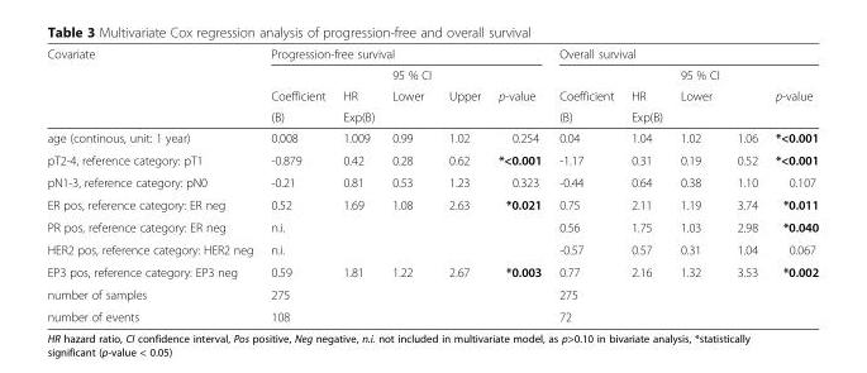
<table><thead><tr><td rowspan="4">Covariate</td><td colspan="5">Progression-free survival</td><td colspan="5">Overall survival</td></tr><tr><td rowspan="3">Coefficient (B)</td><td rowspan="3">HR Exp(B)</td><td rowspan="3">95 % CI Lower</td><td rowspan="3">Upper</td><td rowspan="3">p-value</td><td rowspan="3">Coefficient (B)</td><td rowspan="3">HR Exp(B)</td><td rowspan="3">95 % CI Lower</td><td rowspan="3"></td><td rowspan="3">p-value</td></tr><tr></tr><tr></tr></thead><tbody><tr><td>age (continous, unit: 1 year)</td><td>0.008</td><td>1.009</td><td>0.99</td><td>1.02</td><td>0.254</td><td>0.04</td><td>1.04</td><td>1.02</td><td>1.06</td><td>*&lt;0.001</td></tr><tr><td>pT2-4, reference category: pT1</td><td>-0.879</td><td>0.42</td><td>0.28</td><td>0.62</td><td>*&lt;0.001</td><td>-1.17</td><td>0.31</td><td>0.19</td><td>0.52</td><td>*&lt;0.001</td></tr><tr><td>pN1-3, reference category: pN0</td><td>-0.21</td><td>0.81</td><td>0.53</td><td>1.23</td><td>0.323</td><td>-0.44</td><td>0.64</td><td>0.38</td><td>1.10</td><td>0.107</td></tr><tr><td>ER pos, reference category: ER neg</td><td>0.52</td><td>1.69</td><td>1.08</td><td>2.63</td><td>*0.021</td><td>0.75</td><td>2.11</td><td>1.19</td><td>3.74</td><td>*0.011</td></tr><tr><td>PR pos, reference category: ER neg</td><td>n.i.</td><td></td><td></td><td></td><td></td><td>0.56</td><td>1.75</td><td>1.03</td><td>2.98</td><td>*0.040</td></tr><tr><td>HER2 pos, reference category: HER2 neg</td><td>n.i.</td><td></td><td></td><td></td><td></td><td>-0.57</td><td>0.57</td><td>0.31</td><td>1.04</td><td>0.067</td></tr><tr><td>EP3 pos, reference category: EP3 neg</td><td>0.59</td><td>1.81</td><td>1.22</td><td>2.67</td><td>*0.003</td><td>0.77</td><td>2.16</td><td>1.32</td><td>3.53</td><td>*0.002</td></tr><tr><td>number of samples</td><td>275</td><td></td><td></td><td></td><td></td><td>275</td><td></td><td></td><td></td><td></td></tr><tr><td>number of events</td><td>108</td><td></td><td></td><td></td><td></td><td>72</td><td></td><td></td><td></td><td></td></tr></tbody></table>